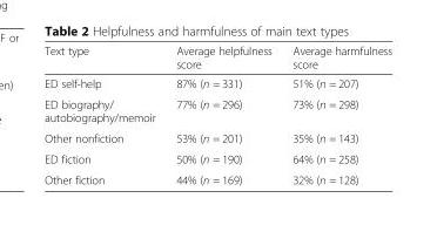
<table><thead><tr><td>Text type</td><td>Average helpfulness score</td><td>Average harmfulness score</td></tr></thead><tbody><tr><td>ED self-help</td><td>87% (n = 331)</td><td>51% (n = 207)</td></tr><tr><td>ED biography/ autobiography/memoir</td><td>77% (n = 296)</td><td>73% (n = 298)</td></tr><tr><td>Other nonfiction</td><td>53% (n = 201)</td><td>35% (n = 143)</td></tr><tr><td>ED fiction</td><td>50% (n = 190)</td><td>64% (n = 258)</td></tr><tr><td>Other fiction</td><td>44% (n = 169)</td><td>32% (n = 128)</td></tr></tbody></table>